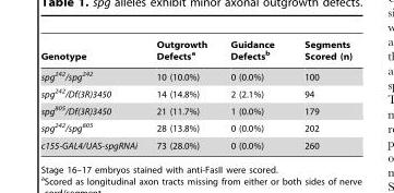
<table><thead><tr><td>Genotype</td><td>Outgrowth Defects<sup>a</sup></td><td>Guidance Defects<sup>b</sup></td><td>Segments Scored (n)</td></tr></thead><tbody><tr><td>spg<sup>242</sup>/spg<sup>242</sup></td><td>10 (10.0%)</td><td>0 (0.0%)</td><td>100</td></tr><tr><td>spg<sup>242</sup>/Df(3R)3450</td><td>14 (14.8%)</td><td>2 (2.1%)</td><td>94</td></tr><tr><td>spg<sup>805</sup>/Df(3R)3450</td><td>21 (11.7%)</td><td>1 (0.0%)</td><td>179</td></tr><tr><td>spg<sup>242</sup>/spg<sup>805</sup></td><td>28 (13.8%)</td><td>0 (0.0%)</td><td>202</td></tr><tr><td>c155-GAL4/UAS-spgRNAi</td><td>73 (28.0%)</td><td>0 (0.0%)</td><td>260</td></tr></tbody></table>